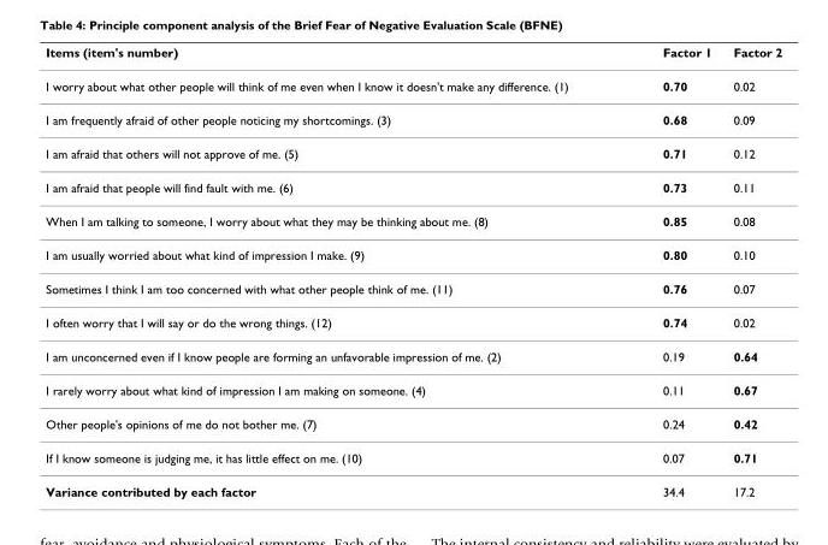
<table><thead><tr><td>Items (item&#x27;s number)</td><td>Factor 1</td><td>Factor 2</td></tr></thead><tbody><tr><td>I worry about what other people will think of me even when I know it doesn&#x27;t make any difference. (1)</td><td>0.70</td><td>0.02</td></tr><tr><td>I am frequently afraid of other people noticing my shortcomings. (3)</td><td>0.68</td><td>0.09</td></tr><tr><td>I am afraid that others will not approve of me. (5)</td><td>0.71</td><td>0.12</td></tr><tr><td>I am afraid that people will find fault with me. (6)</td><td>0.73</td><td>0.11</td></tr><tr><td>When I am talking to someone, I worry about what they may be thinking about me. (8)</td><td>0.85</td><td>0.08</td></tr><tr><td>I am usually worried about what kind of impression I make. (9)</td><td>0.80</td><td>0.10</td></tr><tr><td>Sometimes I think I am too concerned with what other people think of me. (11)</td><td>0.76</td><td>0.07</td></tr><tr><td>I often worry that I will say or do the wrong things. (12)</td><td>0.74</td><td>0.02</td></tr><tr><td>I am unconcerned even if I know people are forming an unfavorable impression of me. (2)</td><td>0.19</td><td>0.64</td></tr><tr><td>I rarely worry about what kind of impression I am making on someone. (4)</td><td>0.11</td><td>0.67</td></tr><tr><td>Other people&#x27;s opinions of me do not bother me. (7)</td><td>0.24</td><td>0.42</td></tr><tr><td>If I know someone is judging me, it has little effect on me. (10)</td><td>0.07</td><td>0.71</td></tr><tr><td>Variance contributed by each factor</td><td>34.4</td><td>17.2</td></tr></tbody></table>